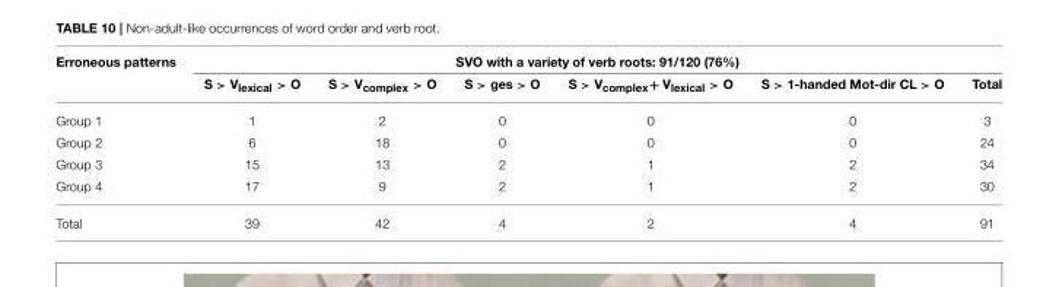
<table><thead><tr><td rowspan="2">Erroneous patterns</td><td colspan="6">SVO with a variety of verb roots: 91/120 (76%)</td></tr><tr><td>S &gt; V<sub>lexical</sub> &gt; O</td><td>S &gt; V<sub>complex</sub> &gt; O</td><td>S &gt; ges &gt; O</td><td>S &gt; V<sub>complex</sub>+ V<sub>lexical</sub> &gt; O</td><td>S &gt; 1-handed Mot-dir CL &gt; O</td><td>Total</td></tr></thead><tbody><tr><td>Group 1</td><td>1</td><td>2</td><td>0</td><td>0</td><td>0</td><td>3</td></tr><tr><td>Group 2</td><td>6</td><td>18</td><td>0</td><td>0</td><td>0</td><td>24</td></tr><tr><td>Group 3</td><td>15</td><td>13</td><td>2</td><td>1</td><td>2</td><td>34</td></tr><tr><td>Group 4</td><td>17</td><td>9</td><td>2</td><td>1</td><td>2</td><td>30</td></tr><tr><td>Total</td><td>39</td><td>42</td><td>4</td><td>2</td><td>4</td><td>91</td></tr></tbody></table>